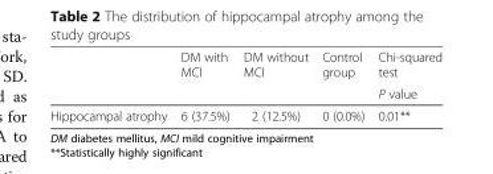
<table><thead><tr><td rowspan="2"></td><td rowspan="2">DM with MCI</td><td rowspan="2">DM without MCI</td><td rowspan="2">Control group</td><td rowspan="2">Chi-squared test P value</td></tr><tr></tr></thead><tbody><tr><td>Hippocampal atrophy</td><td>6 (37.5%)</td><td>2 (12.5%)</td><td>0 (0.0%)</td><td>0.01**</td></tr></tbody></table>